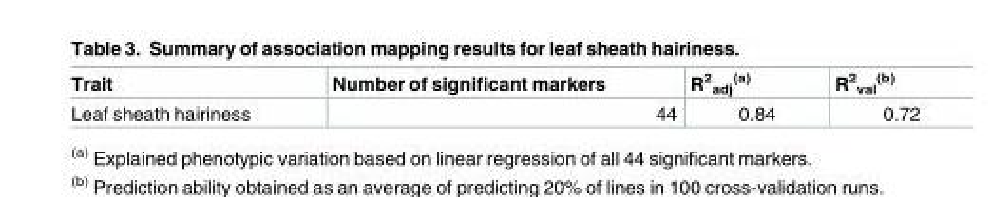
<table><thead><tr><td>Trait</td><td>Number of significant markers</td><td>R<sup>2</sup> <sub>adj</sub> <sup>(a)</sup></td><td>R<sup>2</sup> <sub>val</sub> <sup>(b)</sup></td></tr></thead><tbody><tr><td>Leaf sheath hairiness</td><td>44</td><td>0.84</td><td>0.72</td></tr></tbody></table>